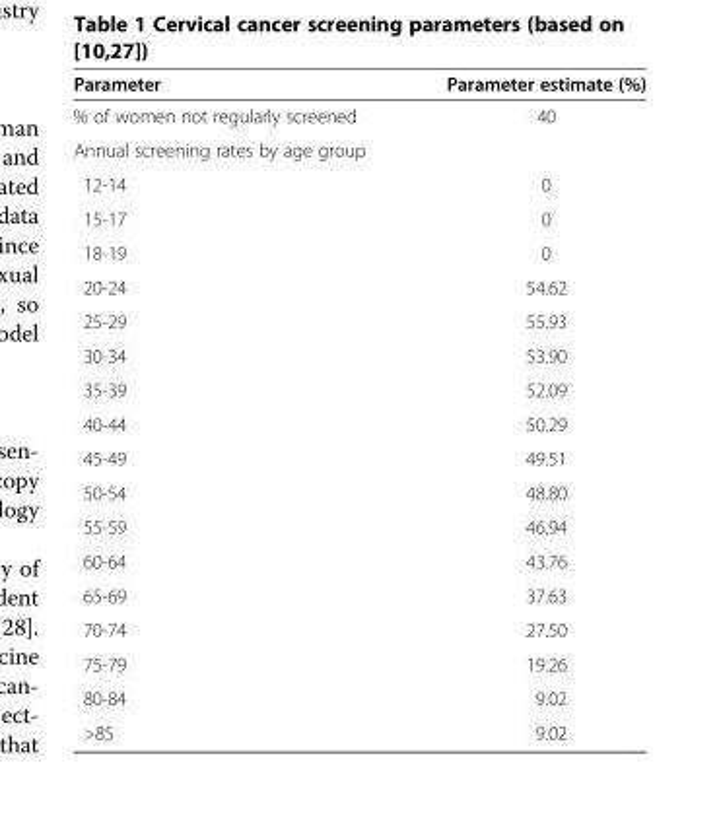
<table><thead><tr><td>Parameter</td><td>Parameter estimate (%)</td></tr></thead><tbody><tr><td>% of women not regularly screened</td><td>40</td></tr><tr><td colspan="2">Annual screening rates by age group</td></tr><tr><td>12-14</td><td>0</td></tr><tr><td>15-17</td><td>0</td></tr><tr><td>18-19</td><td>0</td></tr><tr><td>20-24</td><td>54.62</td></tr><tr><td>25-29</td><td>55.93</td></tr><tr><td>30-34</td><td>53.90</td></tr><tr><td>35-39</td><td>52.09</td></tr><tr><td>40-44</td><td>50.29</td></tr><tr><td>45-49</td><td>49.51</td></tr><tr><td>50-54</td><td>48.80</td></tr><tr><td>55-59</td><td>46.94</td></tr><tr><td>60-64</td><td>43.76</td></tr><tr><td>65-69</td><td>37.63</td></tr><tr><td>70-74</td><td>27.50</td></tr><tr><td>75-79</td><td>19.26</td></tr><tr><td>80-84</td><td>9.02</td></tr><tr><td>&gt;85</td><td>9.02</td></tr></tbody></table>